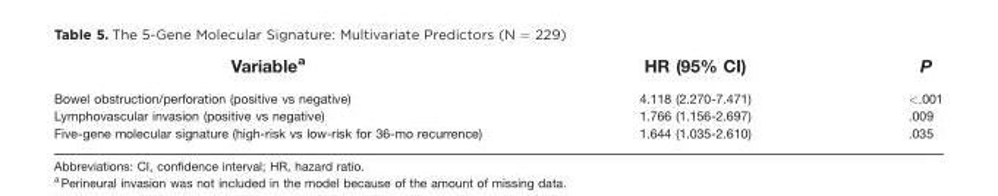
<table><thead><tr><td>Variable<sup>a</sup></td><td>HR (95% CI)</td><td>P</td></tr></thead><tbody><tr><td>Bowel obstruction/perforation (positive vs negative)</td><td>4.118 (2.270-7.471)</td><td>&lt;.001</td></tr><tr><td>Lymphovascular invasion (positive vs negative)</td><td>1.766 (1.156-2.697)</td><td>.009</td></tr><tr><td>Five-gene molecular signature (high-risk vs low-risk for 36-mo recurrence)</td><td>1.644 (1.035-2.610)</td><td>.035</td></tr></tbody></table>